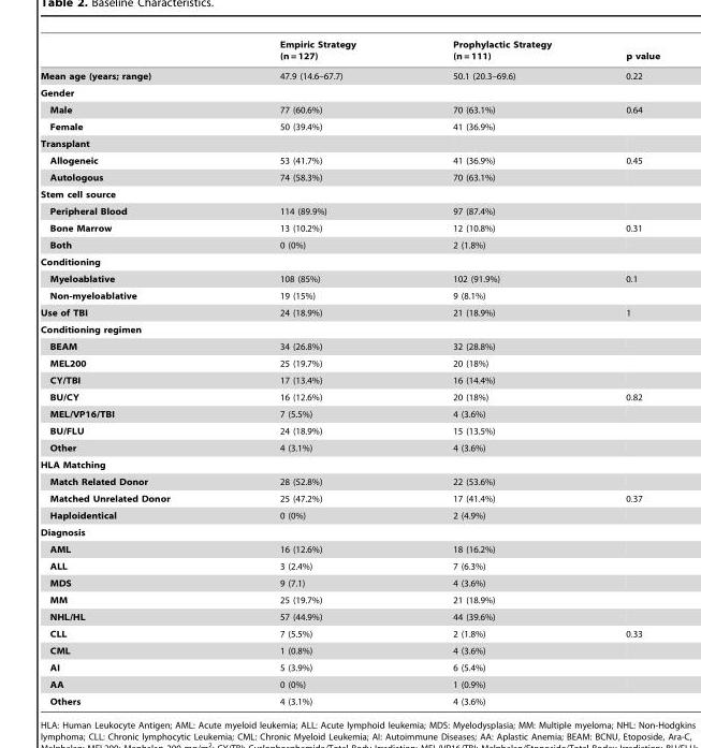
<table><thead><tr><td></td><td>Empiric Strategy (n = 127)</td><td>Prophylactic Strategy (n = 111)</td><td>p value</td></tr></thead><tbody><tr><td>Mean age (years; range)</td><td>47.9 (14.6–67.7)</td><td>50.1 (20.3–69.6)</td><td>0.22</td></tr><tr><td colspan="4">Gender</td></tr><tr><td>Male</td><td>77 (60.6%)</td><td>70 (63.1%)</td><td>0.64</td></tr><tr><td>Female</td><td>50 (39.4%)</td><td>41 (36.9%)</td><td></td></tr><tr><td colspan="4">Transplant</td></tr><tr><td>Allogeneic</td><td>53 (41.7%)</td><td>41 (36.9%)</td><td>0.45</td></tr><tr><td>Autologous</td><td>74 (58.3%)</td><td>70 (63.1%)</td><td></td></tr><tr><td colspan="4">Stem cell source</td></tr><tr><td>Peripheral Blood</td><td>114 (89.9%)</td><td>97 (87.4%)</td><td></td></tr><tr><td>Bone Marrow</td><td>13 (10.2%)</td><td>12 (10.8%)</td><td>0.31</td></tr><tr><td>Both</td><td>0 (0%)</td><td>2 (1.8%)</td><td></td></tr><tr><td colspan="4">Conditioning</td></tr><tr><td>Myeloablative</td><td>108 (85%)</td><td>102 (91.9%)</td><td>0.1</td></tr><tr><td>Non-myeloablative</td><td>19 (15%)</td><td>9 (8.1%)</td><td></td></tr><tr><td>Use of TBI</td><td>24 (18.9%)</td><td>21 (18.9%)</td><td>1</td></tr><tr><td colspan="4">Conditioning regimen</td></tr><tr><td>BEAM</td><td>34 (26.8%)</td><td>32 (28.8%)</td><td></td></tr><tr><td>MEL200</td><td>25 (19.7%)</td><td>20 (18%)</td><td></td></tr><tr><td>CY/TBI</td><td>17 (13.4%)</td><td>16 (14.4%)</td><td></td></tr><tr><td>BU/CY</td><td>16 (12.6%)</td><td>20 (18%)</td><td>0.82</td></tr><tr><td>MEL/VP16/TBI</td><td>7 (5.5%)</td><td>4 (3.6%)</td><td></td></tr><tr><td>BU/FLU</td><td>24 (18.9%)</td><td>15 (13.5%)</td><td></td></tr><tr><td>Other</td><td>4 (3.1%)</td><td>4 (3.6%)</td><td></td></tr><tr><td colspan="4">HLA Matching</td></tr><tr><td>Match Related Donor</td><td>28 (52.8%)</td><td>22 (53.6%)</td><td></td></tr><tr><td>Matched Unrelated Donor</td><td>25 (47.2%)</td><td>17 (41.4%)</td><td>0.37</td></tr><tr><td>Haploidentical</td><td>0 (0%)</td><td>2 (4.9%)</td><td></td></tr><tr><td colspan="4">Diagnosis</td></tr><tr><td>AML</td><td>16 (12.6%)</td><td>18 (16.2%)</td><td></td></tr><tr><td>ALL</td><td>3 (2.4%)</td><td>7 (6.3%)</td><td></td></tr><tr><td>MDS</td><td>9 (7.1)</td><td>4 (3.6%)</td><td></td></tr><tr><td>MM</td><td>25 (19.7%)</td><td>21 (18.9%)</td><td></td></tr><tr><td>NHL/HL</td><td>57 (44.9%)</td><td>44 (39.6%)</td><td></td></tr><tr><td>CLL</td><td>7 (5.5%)</td><td>2 (1.8%)</td><td>0.33</td></tr><tr><td>CML</td><td>1 (0.8%)</td><td>4 (3.6%)</td><td></td></tr><tr><td>AI</td><td>5 (3.9%)</td><td>6 (5.4%)</td><td></td></tr><tr><td>AA</td><td>0 (0%)</td><td>1 (0.9%)</td><td></td></tr><tr><td>Others</td><td>4 (3.1%)</td><td>4 (3.6%)</td><td></td></tr></tbody></table>